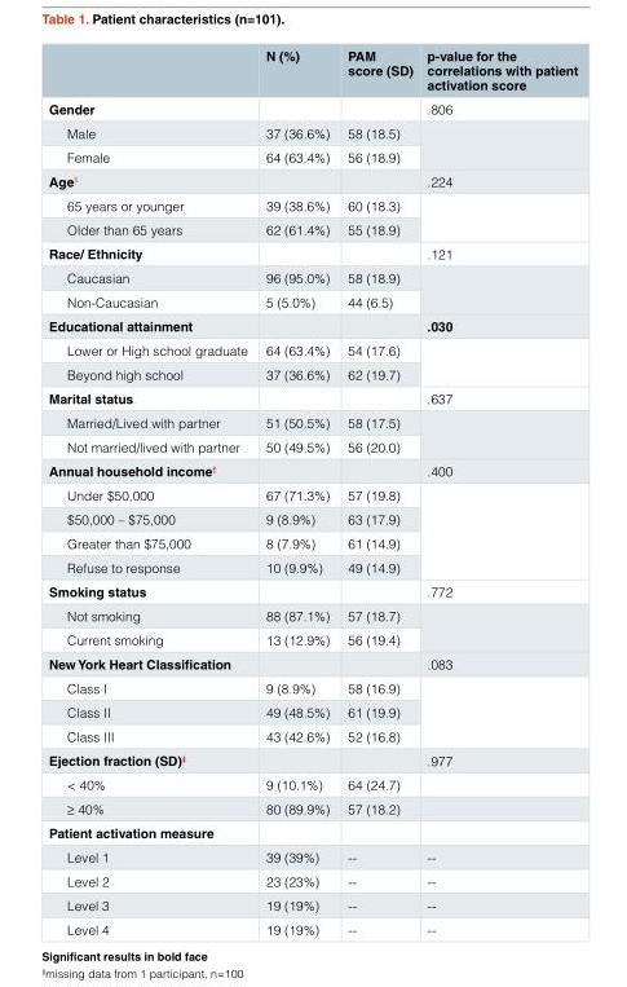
<table><thead><tr><td></td><td>N (%)</td><td>PAM score (SD)</td><td>p-value for the correlations with patient activation score</td></tr></thead><tbody><tr><td>Gender</td><td></td><td></td><td>.806</td></tr><tr><td>Male</td><td>37 (36.6%)</td><td>58 (18.5)</td><td rowspan="2"></td></tr><tr><td>Female</td><td>64 (63.4%)</td><td>56 (18.9)</td></tr><tr><td>Age<sup>$</sup></td><td></td><td></td><td>.224</td></tr><tr><td>65 years or younger</td><td>39 (38.6%)</td><td>60 (18.3)</td><td rowspan="2"></td></tr><tr><td>Older than 65 years</td><td>62 (61.4%)</td><td>55 (18.9)</td></tr><tr><td>Race/ Ethnicity</td><td></td><td></td><td>.121</td></tr><tr><td>Caucasian</td><td>96 (95.0%)</td><td>58 (18.9)</td><td rowspan="2"></td></tr><tr><td>Non-Caucasian</td><td>5 (5.0%)</td><td>44 (6.5)</td></tr><tr><td>Educational attainment</td><td></td><td></td><td>.030</td></tr><tr><td>Lower or High school graduate</td><td>64 (63.4%)</td><td>54 (17.6)</td><td rowspan="2"></td></tr><tr><td>Beyond high school</td><td>37 (36.6%)</td><td>62 (19.7)</td></tr><tr><td>Marital status</td><td></td><td></td><td>.637</td></tr><tr><td>Married/Lived with partner</td><td>51 (50.5%)</td><td>58 (17.5)</td><td rowspan="2"></td></tr><tr><td>Not married/lived with partner</td><td>50 (49.5%)</td><td>56 (20.0)</td></tr><tr><td>Annual household income<sup>†</sup></td><td></td><td></td><td>.400</td></tr><tr><td>Under $50,000</td><td>67 (71.3%)</td><td>57 (19.8)</td><td rowspan="4"></td></tr><tr><td>$50,000 – $75,000</td><td>9 (8.9%)</td><td>63 (17.9)</td></tr><tr><td>Greater than $75,000</td><td>8 (7.9%)</td><td>61 (14.9)</td></tr><tr><td>Refuse to response</td><td>10 (9.9%)</td><td>49 (14.9)</td></tr><tr><td>Smoking status</td><td></td><td></td><td>.772</td></tr><tr><td>Not smoking</td><td>88 (87.1%)</td><td>57 (18.7)</td><td rowspan="2"></td></tr><tr><td>Current smoking</td><td>13 (12.9%)</td><td>56 (19.4)</td></tr><tr><td>New York Heart Classification</td><td></td><td></td><td>.083</td></tr><tr><td>Class I</td><td>9 (8.9%)</td><td>58 (16.9)</td><td rowspan="3"></td></tr><tr><td>Class II</td><td>49 (48.5%)</td><td>61 (19.9)</td></tr><tr><td>Class III</td><td>43 (42.6%)</td><td>52 (16.8)</td></tr><tr><td>Ejection fraction (SD)<sup>‡</sup></td><td></td><td></td><td>.977</td></tr><tr><td>&lt; 40%</td><td>9 (10.1%)</td><td>64 (24.7)</td><td></td></tr><tr><td>≥ 40%</td><td>80 (89.9%)</td><td>57 (18.2)</td><td></td></tr><tr><td colspan="4">Patient activation measure</td></tr><tr><td>Level 1</td><td>39 (39%)</td><td>--</td><td>--</td></tr><tr><td>Level 2</td><td>23 (23%)</td><td>--</td><td>--</td></tr><tr><td>Level 3</td><td>19 (19%)</td><td>--</td><td>--</td></tr><tr><td>Level 4</td><td>19 (19%)</td><td>--</td><td>--</td></tr></tbody></table>